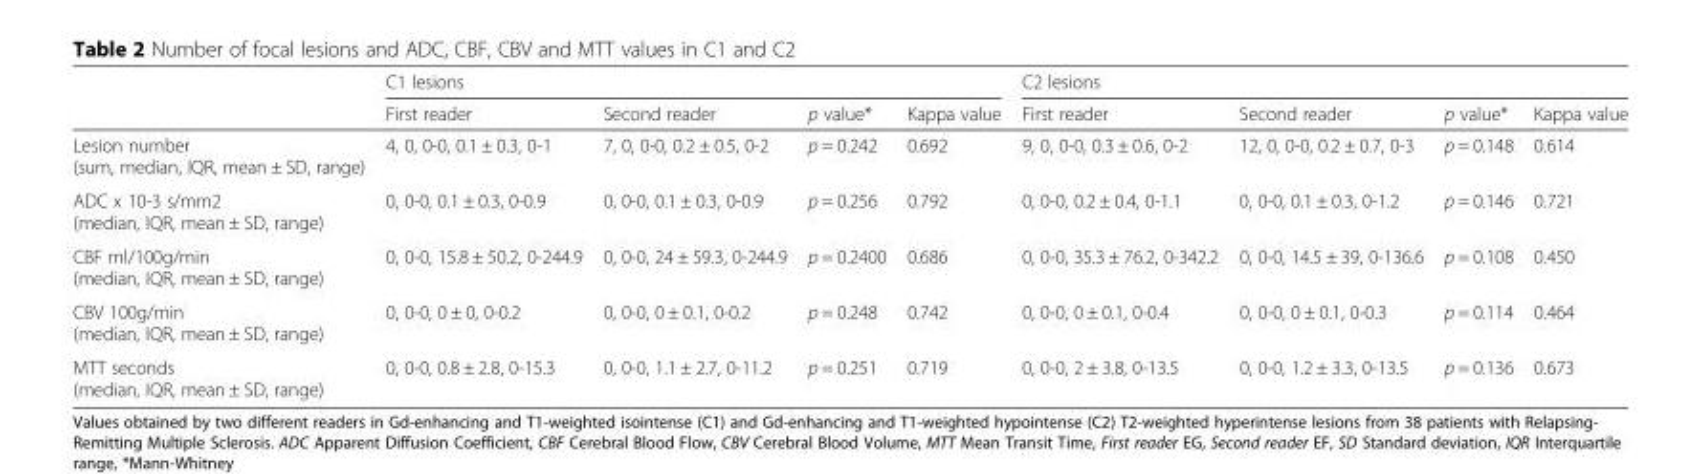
<table><thead><tr><td rowspan="2"></td><td colspan="4">C1 lesions</td><td colspan="4">C2 lesions</td></tr><tr><td>First reader</td><td>Second reader</td><td>p value*</td><td>Kappa value</td><td>First reader</td><td>Second reader</td><td>p value*</td><td>Kappa value</td></tr></thead><tbody><tr><td>Lesion number (sum, median, IQR, mean ± SD, range)</td><td>4, 0, 0-0, 0.1 ± 0.3, 0-1</td><td>7, 0, 0-0, 0.2 ± 0.5, 0-2</td><td>p = 0.242</td><td>0.692</td><td>9, 0, 0-0, 0.3 ± 0.6, 0-2</td><td>12, 0, 0-0, 0.2 ± 0.7, 0-3</td><td>p = 0.148</td><td>0.614</td></tr><tr><td>ADC x 10-3 s/mm2 (median, IQR, mean ± SD, range)</td><td>0, 0-0, 0.1 ± 0.3, 0-0.9</td><td>0, 0-0, 0.1 ± 0.3, 0-0.9</td><td>p = 0.256</td><td>0.792</td><td>0, 0-0, 0.2 ± 0.4, 0-1.1</td><td>0, 0-0, 0.1 ± 0.3, 0-1.2</td><td>p = 0.146</td><td>0.721</td></tr><tr><td>CBF ml/100g/min (median, IQR, mean ± SD, range)</td><td>0, 0-0, 15.8 ± 50.2, 0-244.9</td><td>0, 0-0, 24 ± 59.3, 0-244.9</td><td>p = 0.2400</td><td>0.686</td><td>0, 0-0, 35.3 ± 76.2, 0-342.2</td><td>0, 0-0, 14.5 ± 39, 0-136.6</td><td>p = 0.108</td><td>0.450</td></tr><tr><td>CBV 100g/min (median, IQR, mean ± SD, range)</td><td>0, 0-0, 0 ± 0, 0-0.2</td><td>0, 0-0, 0 ± 0.1, 0-0.2</td><td>p = 0.248</td><td>0.742</td><td>0, 0-0, 0 ± 0.1, 0-0.4</td><td>0, 0-0, 0 ± 0.1, 0-0.3</td><td>p = 0.114</td><td>0.464</td></tr><tr><td>MTT seconds (median, IQR, mean ± SD, range)</td><td>0, 0-0, 0.8 ± 2.8, 0-15.3</td><td>0, 0-0, 1.1 ± 2.7, 0-11.2</td><td>p = 0.251</td><td>0.719</td><td>0, 0-0, 2 ± 3.8, 0-13.5</td><td>0, 0-0, 1.2 ± 3.3, 0-13.5</td><td>p = 0.136</td><td>0.673</td></tr></tbody></table>